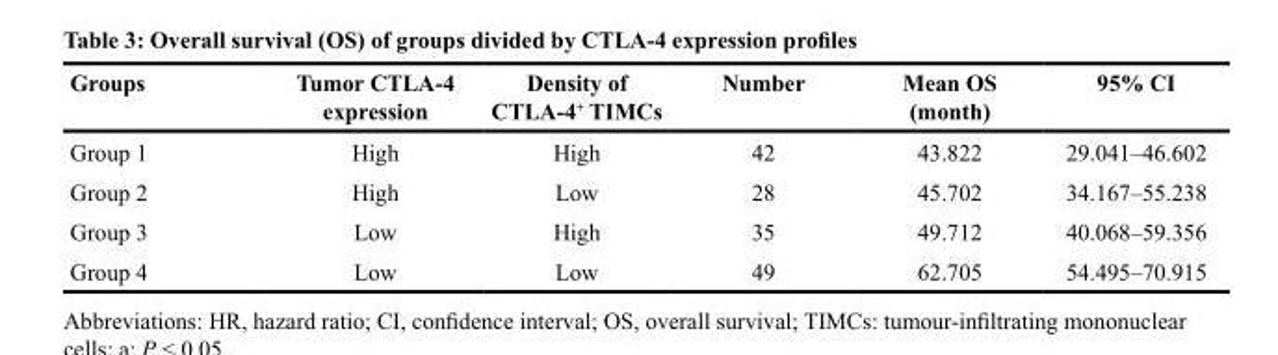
<table><thead><tr><td>Groups</td><td>Tumor CTLA-4 expression</td><td>Density of CTLA-4<sup>+</sup> TIMCs</td><td>Number</td><td>Mean OS (month)</td><td>95% CI</td></tr></thead><tbody><tr><td>Group 1</td><td>High</td><td>High</td><td>42</td><td>43.822</td><td>29.041–46.602</td></tr><tr><td>Group 2</td><td>High</td><td>Low</td><td>28</td><td>45.702</td><td>34.167–55.238</td></tr><tr><td>Group 3</td><td>Low</td><td>High</td><td>35</td><td>49.712</td><td>40.068–59.356</td></tr><tr><td>Group 4</td><td>Low</td><td>Low</td><td>49</td><td>62.705</td><td>54.495–70.915</td></tr></tbody></table>